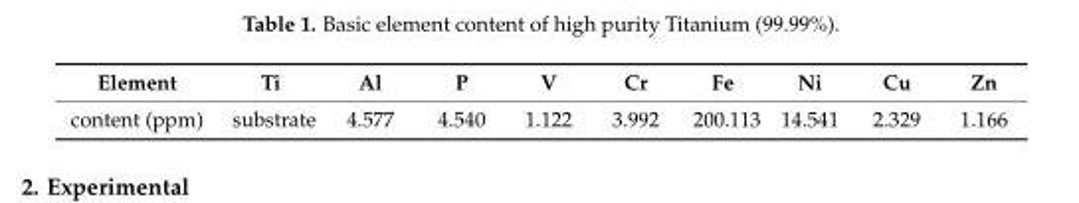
<table><thead><tr><td>Element</td><td>Ti</td><td>Al</td><td>P</td><td>V</td><td>Cr</td><td>Fe</td><td>Ni</td><td>Cu</td><td>Zn</td></tr></thead><tbody><tr><td>content (ppm)</td><td>substrate</td><td>4.577</td><td>4.540</td><td>1.122</td><td>3.992</td><td>200.113</td><td>14.541</td><td>2.329</td><td>1.166</td></tr></tbody></table>